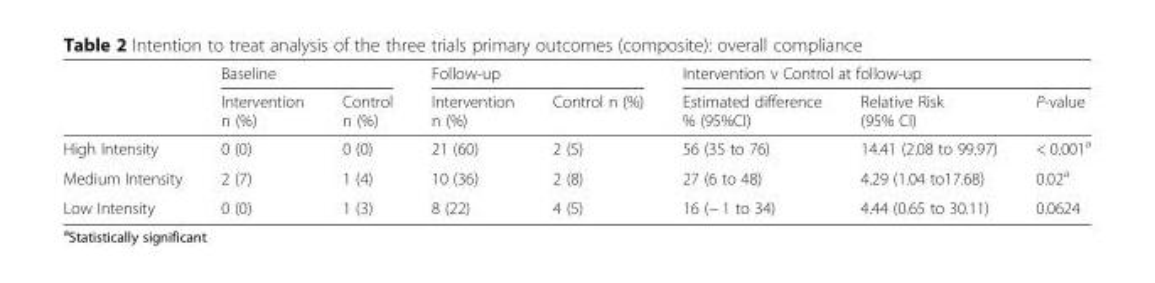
<table><thead><tr><td rowspan="2"></td><td colspan="2">Baseline</td><td colspan="2">Follow-up</td><td colspan="3">Intervention v Control at follow-up</td></tr><tr><td>Intervention n (%)</td><td>Control n (%)</td><td>Intervention n (%)</td><td>Control n (%)</td><td>Estimated difference % (95%CI)</td><td>Relative Risk (95% CI)</td><td>P-value</td></tr></thead><tbody><tr><td>High Intensity</td><td>0 (0)</td><td>0 (0)</td><td>21 (60)</td><td>2 (5)</td><td>56 (35 to 76)</td><td>14.41 (2.08 to 99.97)</td><td>&lt; 0.001<sup>a</sup></td></tr><tr><td>Medium Intensity</td><td>2 (7)</td><td>1 (4)</td><td>10 (36)</td><td>2 (8)</td><td>27 (6 to 48)</td><td>4.29 (1.04 to17.68)</td><td>0.02<sup>a</sup></td></tr><tr><td>Low Intensity</td><td>0 (0)</td><td>1 (3)</td><td>8 (22)</td><td>4 (5)</td><td>16 (− 1 to 34)</td><td>4.44 (0.65 to 30.11)</td><td>0.0624</td></tr></tbody></table>